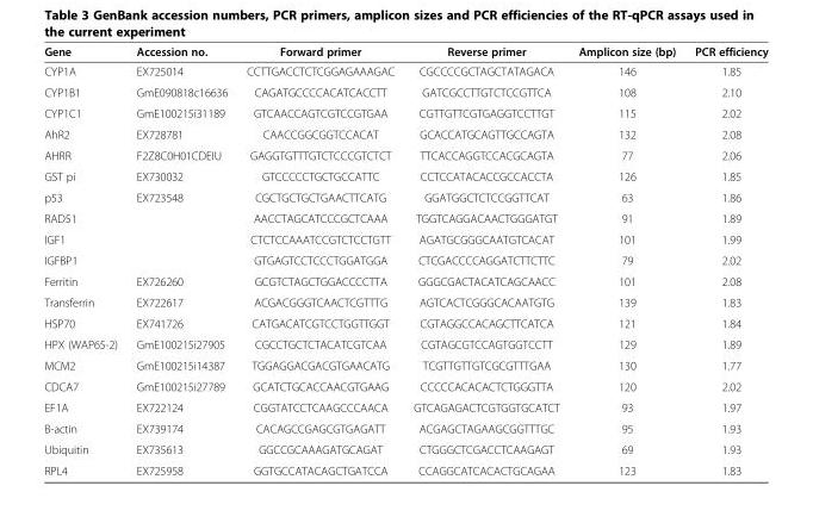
<table><thead><tr><td>Gene</td><td>Accession no.</td><td>Forward primer</td><td>Reverse primer</td><td>Amplicon size (bp)</td><td>PCR efficiency</td></tr></thead><tbody><tr><td>CYP1A</td><td>EX725014</td><td>CCTTGACCTCTCGGAGAAAGAC</td><td>CGCCCCGCTAGCTATAGACA</td><td>146</td><td>1.85</td></tr><tr><td>CYP1B1</td><td>GmE090818c16636</td><td>CAGATGCCCCACATCACCTT</td><td>GATCGCCTTGTCTCCGTTCA</td><td>108</td><td>2.10</td></tr><tr><td>CYP1C1</td><td>GmE100215i31189</td><td>GTCAACCAGTCGTCCGTGAA</td><td>CGTTGTTCGTGAGGTCCTTGT</td><td>115</td><td>2.02</td></tr><tr><td>AhR2</td><td>EX728781</td><td>CAACCGGCGGTCCACAT</td><td>GCACCATGCAGTTGCCAGTA</td><td>132</td><td>2.08</td></tr><tr><td>AHRR</td><td>F2Z8C0H01CDEIU</td><td>GAGGTGTTTGTCTCCCGTCTCT</td><td>TTCACCAGGTCCACGCAGTA</td><td>77</td><td>2.06</td></tr><tr><td>GST pi</td><td>EX730032</td><td>GTCCCCCTGCTGCCATTC</td><td>CCTCCATACACCGCCACCTA</td><td>126</td><td>1.85</td></tr><tr><td>p53</td><td>EX723548</td><td>CGCTGCTGCTGAACTTCATG</td><td>GGATGGCTCTCCGGTTCAT</td><td>63</td><td>1.86</td></tr><tr><td>RAD51</td><td></td><td>AACCTAGCATCCCGCTCAAA</td><td>TGGTCAGGACAACTGGGATGT</td><td>91</td><td>1.89</td></tr><tr><td>IGF1</td><td></td><td>CTCTCCAAATCCGTCTCCTGTT</td><td>AGATGCGGGCAATGTCACAT</td><td>101</td><td>1.99</td></tr><tr><td>IGFBP1</td><td></td><td>GTGAGTCCTCCCTGGATGGA</td><td>CTCGACCCCAGGATCTTCTTC</td><td>79</td><td>2.02</td></tr><tr><td>Ferritin</td><td>EX726260</td><td>GCGTCTAGCTGGACCCCTTA</td><td>GGGCGACTACATCAGCAACC</td><td>101</td><td>2.08</td></tr><tr><td>Transferrin</td><td>EX722617</td><td>ACGACGGGTCAACTCGTTTG</td><td>AGTCACTCGGGCACAATGTG</td><td>139</td><td>1.83</td></tr><tr><td>HSP70</td><td>EX741726</td><td>CATGACATCGTCCTGGTTGGT</td><td>CGTAGGCCACAGCTTCATCA</td><td>121</td><td>1.84</td></tr><tr><td>HPX (WAP65-2)</td><td>GmE100215i27905</td><td>CGCCTGCTCTACATCGTCAA</td><td>CGTAGCGTCCAGTGGTCCTT</td><td>129</td><td>1.89</td></tr><tr><td>MCM2</td><td>GmE100215i14387</td><td>TGGAGGACGACGTGAACATG</td><td>TCGTTGTTGTCGCGTTTGAA</td><td>130</td><td>1.77</td></tr><tr><td>CDCA7</td><td>GmE100215i27789</td><td>GCATCTGCACCAACGTGAAG</td><td>CCCCCACACACTCTGGGTTA</td><td>120</td><td>2.02</td></tr><tr><td>EF1A</td><td>EX722124</td><td>CGGTATCCTCAAGCCCAACA</td><td>GTCAGAGACTCGTGGTGCATCT</td><td>93</td><td>1.97</td></tr><tr><td>B-actin</td><td>EX739174</td><td>CACAGCCGAGCGTGAGATT</td><td>ACGAGCTAGAAGCGGTTTGC</td><td>95</td><td>1.93</td></tr><tr><td>Ubiquitin</td><td>EX735613</td><td>GGCCGCAAAGATGCAGAT</td><td>CTGGGCTCGACCTCAAGAGT</td><td>69</td><td>1.93</td></tr><tr><td>RPL4</td><td>EX725958</td><td>GGTGCCATACAGCTGATCCA</td><td>CCAGGCATCACACTGCAGAA</td><td>123</td><td>1.83</td></tr></tbody></table>